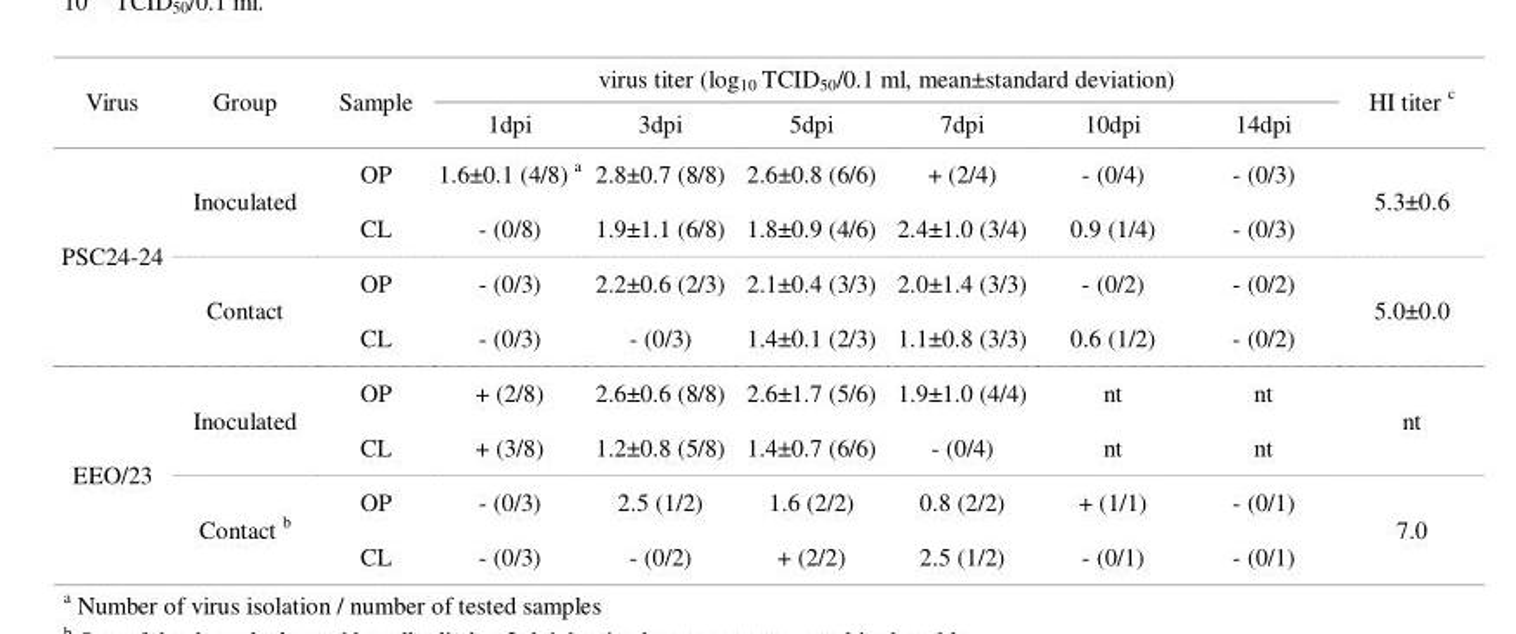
<table><thead><tr><td rowspan="2">Virus</td><td rowspan="2">Group</td><td rowspan="2">Sample</td><td colspan="6">virus titer (log<sub>10</sub> TCID<sub>50</sub>/0.1 ml, mean±standard deviation)</td><td rowspan="2">HI titer <sup>c</sup></td></tr><tr><td>1dpi</td><td>3dpi</td><td>5dpi</td><td>7dpi</td><td>10dpi</td><td>14dpi</td></tr></thead><tbody><tr><td rowspan="4">PSC24-24</td><td rowspan="2">Inoculated</td><td>OP</td><td>1.6±0.1 (4/8) <sup>a</sup></td><td>2.8±0.7 (8/8)</td><td>2.6±0.8 (6/6)</td><td>+ (2/4)</td><td>- (0/4)</td><td>- (0/3)</td><td rowspan="2">5.3±0.6</td></tr><tr><td>CL</td><td>- (0/8)</td><td>1.9±1.1 (6/8)</td><td>1.8±0.9 (4/6)</td><td>2.4±1.0 (3/4)</td><td>0.9 (1/4)</td><td>- (0/3)</td></tr><tr><td rowspan="2">Contact</td><td>OP</td><td>- (0/3)</td><td>2.2±0.6 (2/3)</td><td>2.1±0.4 (3/3)</td><td>2.0±1.4 (3/3)</td><td>- (0/2)</td><td>- (0/2)</td><td rowspan="2">5.0±0.0</td></tr><tr><td>CL</td><td>- (0/3)</td><td>- (0/3)</td><td>1.4±0.1 (2/3)</td><td>1.1±0.8 (3/3)</td><td>0.6 (1/2)</td><td>- (0/2)</td></tr><tr><td rowspan="4">EEO/23</td><td rowspan="2">Inoculated</td><td>OP</td><td>+ (2/8)</td><td>2.6±0.6 (8/8)</td><td>2.6±1.7 (5/6)</td><td>1.9±1.0 (4/4)</td><td>nt</td><td>nt</td><td rowspan="2">nt</td></tr><tr><td>CL</td><td>+ (3/8)</td><td>1.2±0.8 (5/8)</td><td>1.4±0.7 (6/6)</td><td>- (0/4)</td><td>nt</td><td>nt</td></tr><tr><td rowspan="2">Contact <sup>b</sup></td><td>OP</td><td>- (0/3)</td><td>2.5 (1/2)</td><td>1.6 (2/2)</td><td>0.8 (2/2)</td><td>+ (1/1)</td><td>- (0/1)</td><td rowspan="2">7.0</td></tr><tr><td>CL</td><td>- (0/3)</td><td>- (0/2)</td><td>+ (2/2)</td><td>2.5 (1/2)</td><td>- (0/1)</td><td>- (0/1)</td></tr></tbody></table>